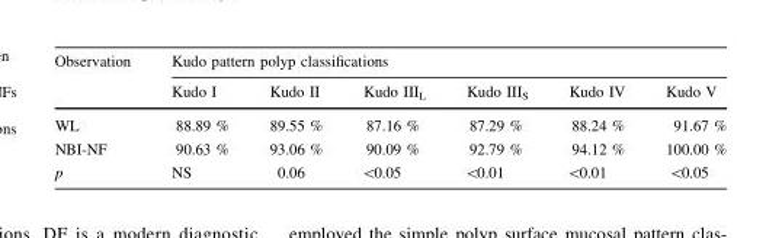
<table><thead><tr><td rowspan="2">Observation</td><td colspan="6">Kudo pattern polyp classifications</td></tr><tr><td>Kudo I</td><td>Kudo II</td><td>Kudo III<sub>L</sub></td><td>Kudo III<sub>S</sub></td><td>Kudo IV</td><td>Kudo V</td></tr></thead><tbody><tr><td>WL</td><td>88.89 %</td><td>89.55 %</td><td>87.16 %</td><td>87.29 %</td><td>88.24 %</td><td>91.67 %</td></tr><tr><td>NBI-NF</td><td>90.63 %</td><td>93.06 %</td><td>90.09 %</td><td>92.79 %</td><td>94.12 %</td><td>100.00 %</td></tr><tr><td>p</td><td>NS</td><td>0.06</td><td>&lt;0.05</td><td>&lt;0.01</td><td>&lt;0.01</td><td>&lt;0.05</td></tr></tbody></table>